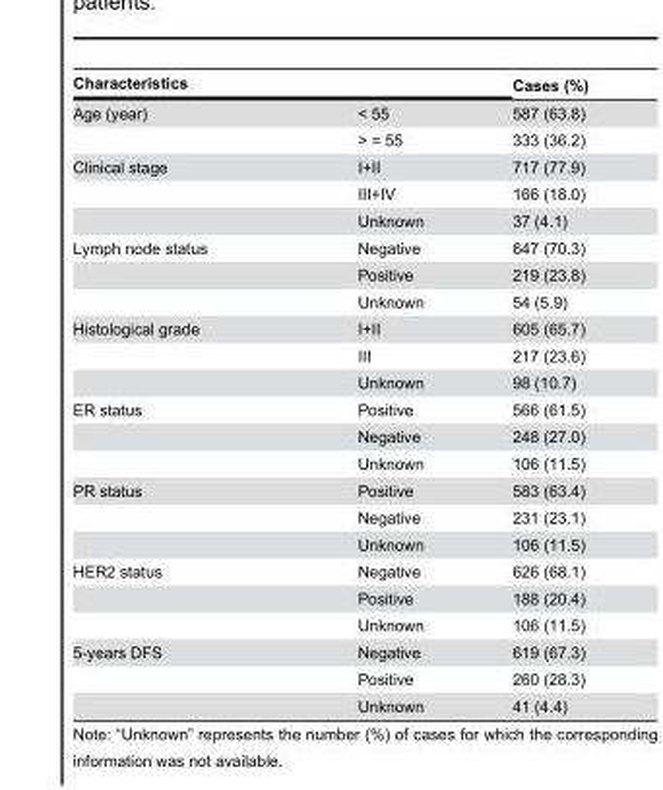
<table><thead><tr><td colspan="2">Characteristics</td><td rowspan="2">Cases (%) 587 (63.8)</td></tr><tr><td>Age (year)</td><td>&lt; 55</td></tr></thead><tbody><tr><td></td><td>&gt; = 55</td><td>333 (36.2)</td></tr><tr><td rowspan="3">Clinical stage</td><td>I+II</td><td>717 (77.9)</td></tr><tr><td>III+IV</td><td>166 (18.0)</td></tr><tr><td>Unknown</td><td>37 (4.1)</td></tr><tr><td rowspan="3">Lymph node status</td><td>Negative</td><td>647 (70.3)</td></tr><tr><td>Positive</td><td>219 (23.8)</td></tr><tr><td>Unknown</td><td>54 (5.9)</td></tr><tr><td rowspan="3">Histological grade</td><td>I+II</td><td>605 (65.7)</td></tr><tr><td>III</td><td>217 (23.6)</td></tr><tr><td>Unknown</td><td>98 (10.7)</td></tr><tr><td rowspan="3">ER status</td><td>Positive</td><td>566 (61.5)</td></tr><tr><td>Negative</td><td>248 (27.0)</td></tr><tr><td>Unknown</td><td>106 (11.5)</td></tr><tr><td rowspan="3">PR status</td><td>Positive</td><td>583 (63.4)</td></tr><tr><td>Negative</td><td>231 (23.1)</td></tr><tr><td>Unknown</td><td>106 (11.5)</td></tr><tr><td rowspan="3">HER2 status</td><td>Negative</td><td>626 (68.1)</td></tr><tr><td>Positive</td><td>188 (20.4)</td></tr><tr><td>Unknown</td><td>106 (11.5)</td></tr><tr><td rowspan="3">5-years DFS</td><td>Negative</td><td>619 (67.3)</td></tr><tr><td>Positive</td><td>260 (28.3)</td></tr><tr><td>Unknown</td><td>41 (4.4)</td></tr></tbody></table>